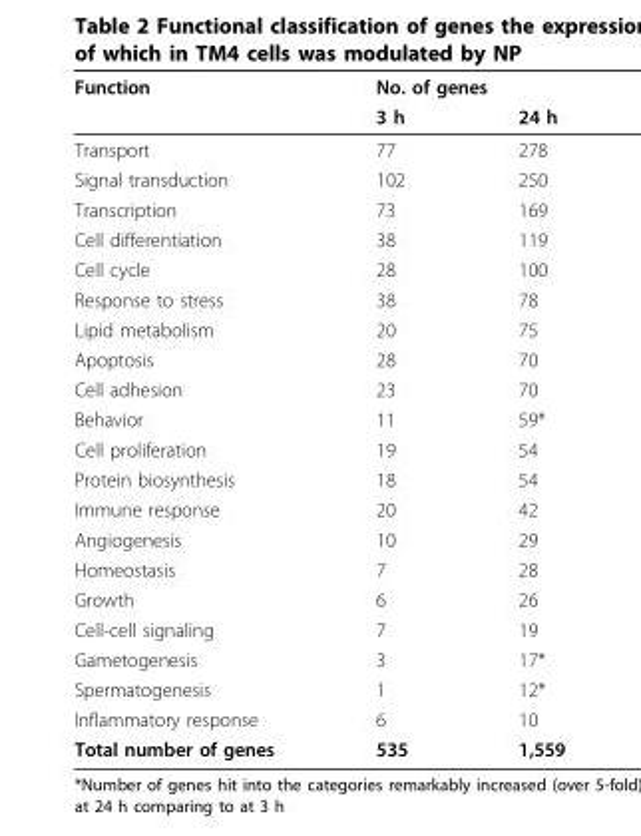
<table><thead><tr><td rowspan="2">Function</td><td colspan="2">No. of genes</td></tr><tr><td>3 h</td><td>24 h</td></tr></thead><tbody><tr><td>Transport</td><td>77</td><td>278</td></tr><tr><td>Signal transduction</td><td>102</td><td>250</td></tr><tr><td>Transcription</td><td>73</td><td>169</td></tr><tr><td>Cell differentiation</td><td>38</td><td>119</td></tr><tr><td>Cell cycle</td><td>28</td><td>100</td></tr><tr><td>Response to stress</td><td>38</td><td>78</td></tr><tr><td>Lipid metabolism</td><td>20</td><td>75</td></tr><tr><td>Apoptosis</td><td>28</td><td>70</td></tr><tr><td>Cell adhesion</td><td>23</td><td>70</td></tr><tr><td>Behavior</td><td>11</td><td>59*</td></tr><tr><td>Cell proliferation</td><td>19</td><td>54</td></tr><tr><td>Protein biosynthesis</td><td>18</td><td>54</td></tr><tr><td>Immune response</td><td>20</td><td>42</td></tr><tr><td>Angiogenesis</td><td>10</td><td>29</td></tr><tr><td>Homeostasis</td><td>7</td><td>28</td></tr><tr><td>Growth</td><td>6</td><td>26</td></tr><tr><td>Cell-cell signaling</td><td>7</td><td>19</td></tr><tr><td>Gametogenesis</td><td>3</td><td>17*</td></tr><tr><td>Spermatogenesis</td><td>1</td><td>12*</td></tr><tr><td>Inflammatory response</td><td>6</td><td>10</td></tr><tr><td>Total number of genes</td><td>535</td><td>1,559</td></tr></tbody></table>